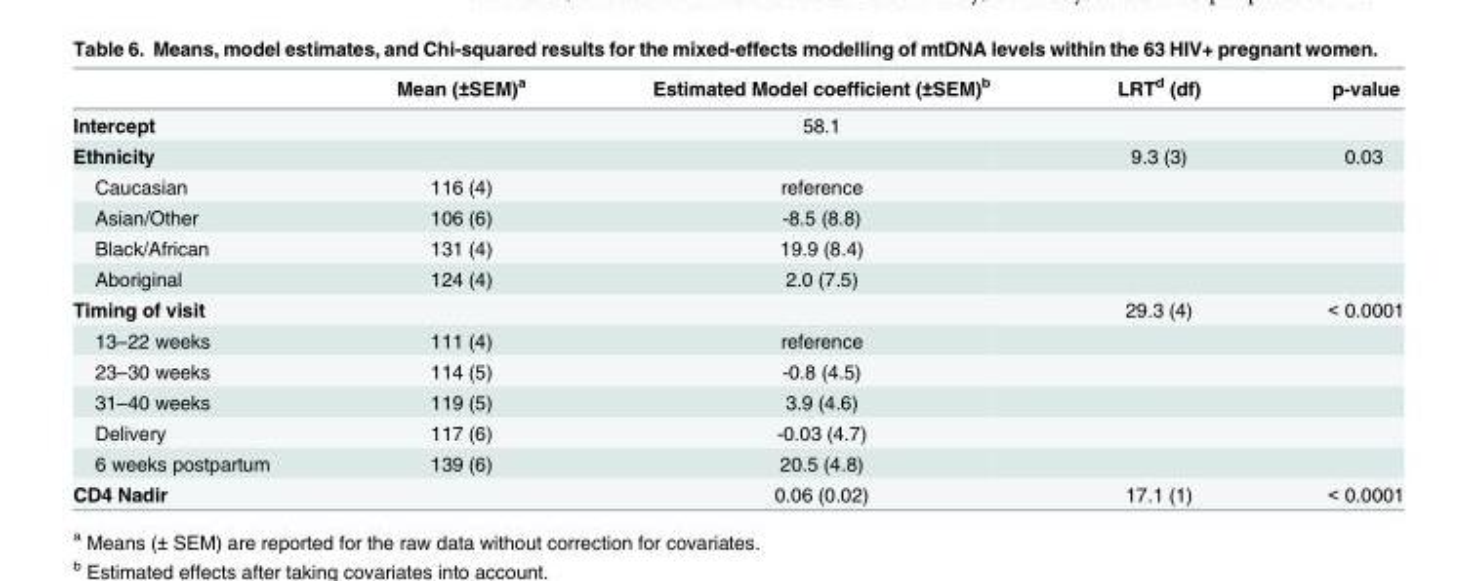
<table><thead><tr><td></td><td>Mean (±SEM)<sup>a</sup></td><td>Estimated Model coefficient (±SEM)<sup>b</sup></td><td>LRT<sup>d</sup> (df)</td><td>p-value</td></tr></thead><tbody><tr><td>Intercept</td><td></td><td>58.1</td><td></td><td></td></tr><tr><td>Ethnicity</td><td></td><td></td><td>9.3 (3)</td><td>0.03</td></tr><tr><td>Caucasian</td><td>116 (4)</td><td>reference</td><td></td><td></td></tr><tr><td>Asian/Other</td><td>106 (6)</td><td>-8.5 (8.8)</td><td></td><td></td></tr><tr><td>Black/African</td><td>131 (4)</td><td>19.9 (8.4)</td><td></td><td></td></tr><tr><td>Aboriginal</td><td>124 (4)</td><td>2.0 (7.5)</td><td></td><td></td></tr><tr><td>Timing of visit</td><td></td><td></td><td>29.3 (4)</td><td>&lt; 0.0001</td></tr><tr><td>13–22 weeks</td><td>111 (4)</td><td>reference</td><td></td><td></td></tr><tr><td>23–30 weeks</td><td>114 (5)</td><td>-0.8 (4.5)</td><td></td><td></td></tr><tr><td>31–40 weeks</td><td>119 (5)</td><td>3.9 (4.6)</td><td></td><td></td></tr><tr><td>Delivery</td><td>117 (6)</td><td>-0.03 (4.7)</td><td></td><td></td></tr><tr><td>6 weeks postpartum</td><td>139 (6)</td><td>20.5 (4.8)</td><td></td><td></td></tr><tr><td>CD4 Nadir</td><td></td><td>0.06 (0.02)</td><td>17.1 (1)</td><td>&lt; 0.0001</td></tr></tbody></table>